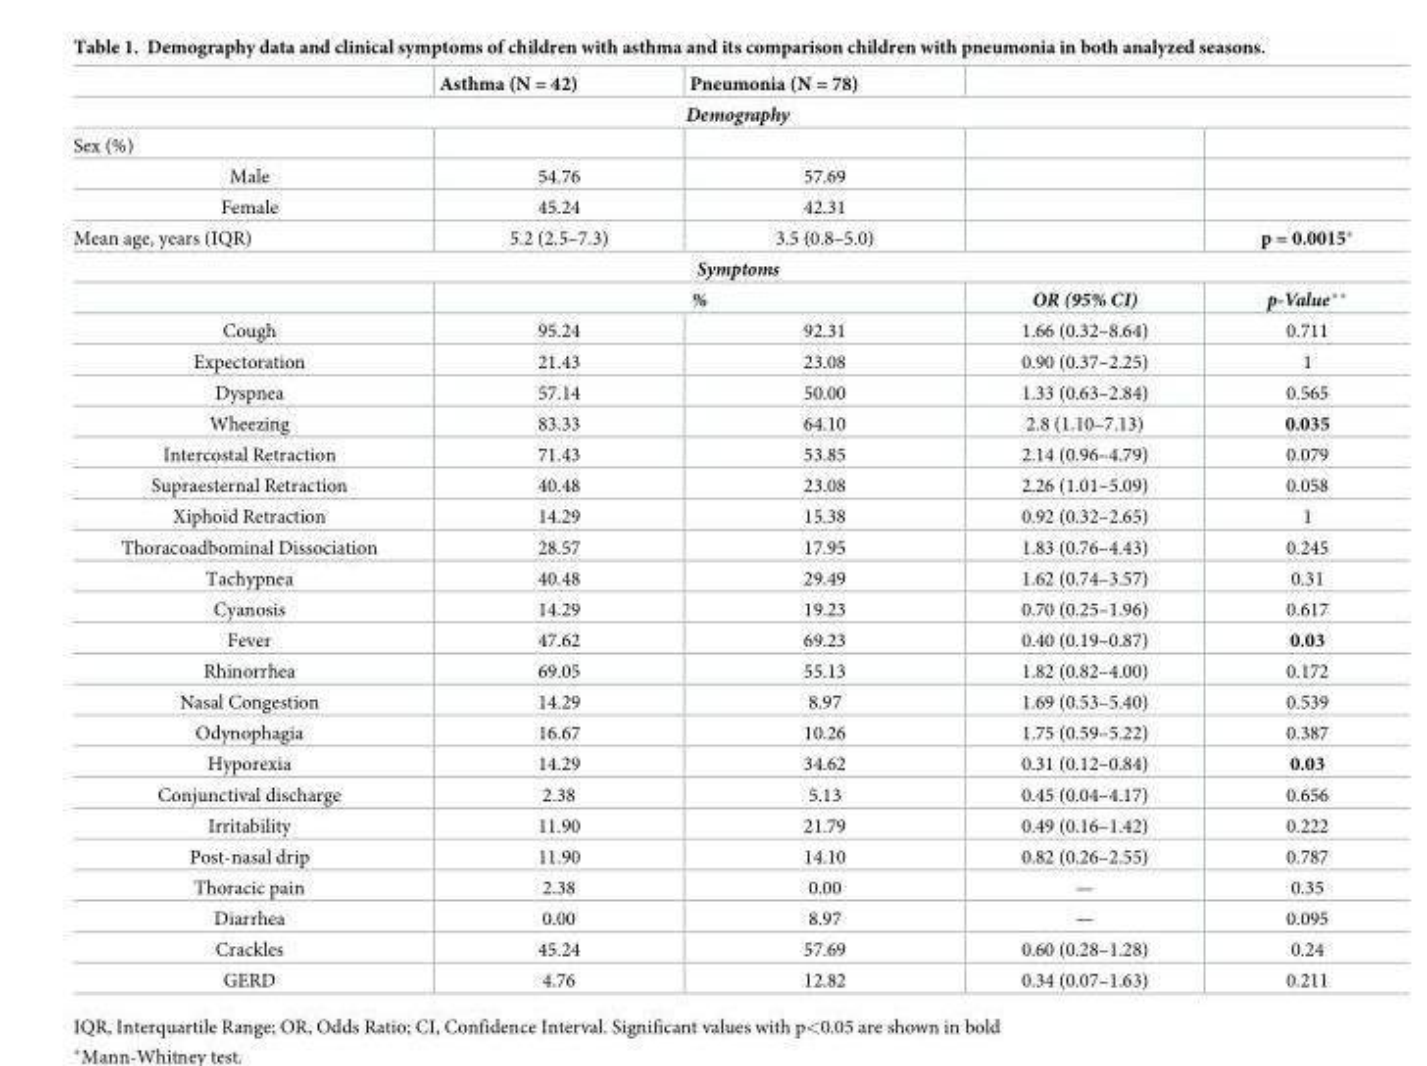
<table><thead><tr><td></td><td>Asthma (N = 42)</td><td>Pneumonia (N = 78)</td><td></td><td></td></tr></thead><tbody><tr><td colspan="5">Demography</td></tr><tr><td colspan="5">Sex (%)</td></tr><tr><td>Male</td><td>54.76</td><td>57.69</td><td></td><td></td></tr><tr><td>Female</td><td>45.24</td><td>42.31</td><td></td><td></td></tr><tr><td>Mean age, years (IQR)</td><td>5.2 (2.5–7.3)</td><td>3.5 (0.8–5.0)</td><td></td><td>p = 0.0015*</td></tr><tr><td colspan="5">Symptoms</td></tr><tr><td></td><td colspan="2">%</td><td>OR (95% CI)</td><td>p-Value**</td></tr><tr><td>Cough</td><td>95.24</td><td>92.31</td><td>1.66 (0.32–8.64)</td><td>0.711</td></tr><tr><td>Expectoration</td><td>21.43</td><td>23.08</td><td>0.90 (0.37–2.25)</td><td>1</td></tr><tr><td>Dyspnea</td><td>57.14</td><td>50.00</td><td>1.33 (0.63–2.84)</td><td>0.565</td></tr><tr><td>Wheezing</td><td>83.33</td><td>64.10</td><td>2.8 (1.10–7.13)</td><td>0.035</td></tr><tr><td>Intercostal Retraction</td><td>71.43</td><td>53.85</td><td>2.14 (0.96–4.79)</td><td>0.079</td></tr><tr><td>Supraesternal Retraction</td><td>40.48</td><td>23.08</td><td>2.26 (1.01–5.09)</td><td>0.058</td></tr><tr><td>Xiphoid Retraction</td><td>14.29</td><td>15.38</td><td>0.92 (0.32–2.65)</td><td>1</td></tr><tr><td>Thoracoadbominal Dissociation</td><td>28.57</td><td>17.95</td><td>1.83 (0.76–4.43)</td><td>0.245</td></tr><tr><td>Tachypnea</td><td>40.48</td><td>29.49</td><td>1.62 (0.74–3.57)</td><td>0.31</td></tr><tr><td>Cyanosis</td><td>14.29</td><td>19.23</td><td>0.70 (0.25–1.96)</td><td>0.617</td></tr><tr><td>Fever</td><td>47.62</td><td>69.23</td><td>0.40 (0.19–0.87)</td><td>0.03</td></tr><tr><td>Rhinorrhea</td><td>69.05</td><td>55.13</td><td>1.82 (0.82–4.00)</td><td>0.172</td></tr><tr><td>Nasal Congestion</td><td>14.29</td><td>8.97</td><td>1.69 (0.53–5.40)</td><td>0.539</td></tr><tr><td>Odynophagia</td><td>16.67</td><td>10.26</td><td>1.75 (0.59–5.22)</td><td>0.387</td></tr><tr><td>Hyporexia</td><td>14.29</td><td>34.62</td><td>0.31 (0.12–0.84)</td><td>0.03</td></tr><tr><td>Conjunctival discharge</td><td>2.38</td><td>5.13</td><td>0.45 (0.04–4.17)</td><td>0.656</td></tr><tr><td>Irritability</td><td>11.90</td><td>21.79</td><td>0.49 (0.16–1.42)</td><td>0.222</td></tr><tr><td>Post-nasal drip</td><td>11.90</td><td>14.10</td><td>0.82 (0.26–2.55)</td><td>0.787</td></tr><tr><td>Thoracic pain</td><td>2.38</td><td>0.00</td><td>—</td><td>0.35</td></tr><tr><td>Diarrhea</td><td>0.00</td><td>8.97</td><td>—</td><td>0.095</td></tr><tr><td>Crackles</td><td>45.24</td><td>57.69</td><td>0.60 (0.28–1.28)</td><td>0.24</td></tr><tr><td>GERD</td><td>4.76</td><td>12.82</td><td>0.34 (0.07–1.63)</td><td>0.211</td></tr></tbody></table>